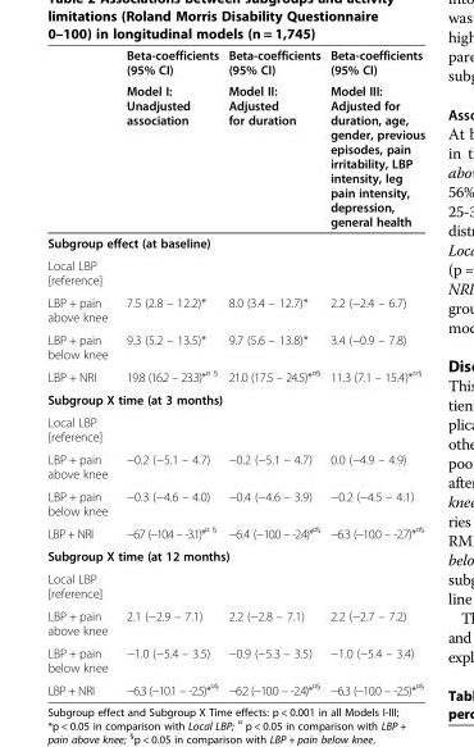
<table><thead><tr><td rowspan="2"></td><td rowspan="2">Beta-coefficients (95% CI) Model I: Unadjusted association</td><td rowspan="2">Beta-coefficients (95% CI) Model II: Adjusted for duration</td><td rowspan="2">Beta-coefficients (95% CI) Model III: Adjusted for duration, age, gender, previous episodes, pain irritability, LBP intensity, leg pain intensity, depression, general health</td></tr><tr></tr></thead><tbody><tr><td colspan="4">Subgroup effect (at baseline)</td></tr><tr><td colspan="4">Local LBP [reference]</td></tr><tr><td>LBP + pain above knee</td><td>7.5 (2.8 – 12.2)*</td><td>8.0 (3.4 – 12.7)*</td><td>2.2 (−2.4 – 6.7)</td></tr><tr><td>LBP + pain below knee</td><td>9.3 (5.2 – 13.5)*</td><td>9.7 (5.6 – 13.8)*</td><td>3.4 (−0.9 – 7.8)</td></tr><tr><td>LBP + NRI</td><td>19.8 (16.2 – 23.3)*<sup>¤ §</sup></td><td>21.0 (17.5 – 24.5)*<sup>¤§</sup></td><td>11.3 (7.1 – 15.4)*<sup>¤§</sup></td></tr><tr><td colspan="4">Subgroup X time (at 3 months)</td></tr><tr><td colspan="4">Local LBP [reference]</td></tr><tr><td>LBP + pain above knee</td><td>−0.2 (−5.1 – 4.7)</td><td>−0.2 (−5.1 – 4.7)</td><td>0.0 (−4.9 – 4.9)</td></tr><tr><td>LBP + pain below knee</td><td>−0.3 (−4.6 – 4.0)</td><td>−0.4 (−4.6 – 3.9)</td><td>−0.2 (−4.5 – 4.1)</td></tr><tr><td>LBP + NRI</td><td>−6.7 (−10.4 – -3.1)*<sup>¤ §</sup></td><td>−6.4 (−10.0 – -2.4)*<sup>¤§</sup></td><td>−6.3 (−10.0 – -2.7)*<sup>¤§</sup></td></tr><tr><td colspan="4">Subgroup X time (at 12 months)</td></tr><tr><td colspan="4">Local LBP [reference]</td></tr><tr><td>LBP + pain above knee</td><td>2.1 (−2.9 – 7.1)</td><td>2.2 (−2.8 – 7.1)</td><td>2.2 (−2.7 – 7.2)</td></tr><tr><td>LBP + pain below knee</td><td>−1.0 (−5.4 – 3.5)</td><td>−0.9 (−5.3 – 3.5)</td><td>−1.0 (−5.4 – 3.4)</td></tr><tr><td>LBP + NRI</td><td>−6.3 (−10.1 – -2.5)*<sup>¤§</sup></td><td>−6.2 (−10.0 – -2.4)*<sup>¤§</sup></td><td>−6.3 (−10.0 – -2.5)*<sup>¤§</sup></td></tr></tbody></table>